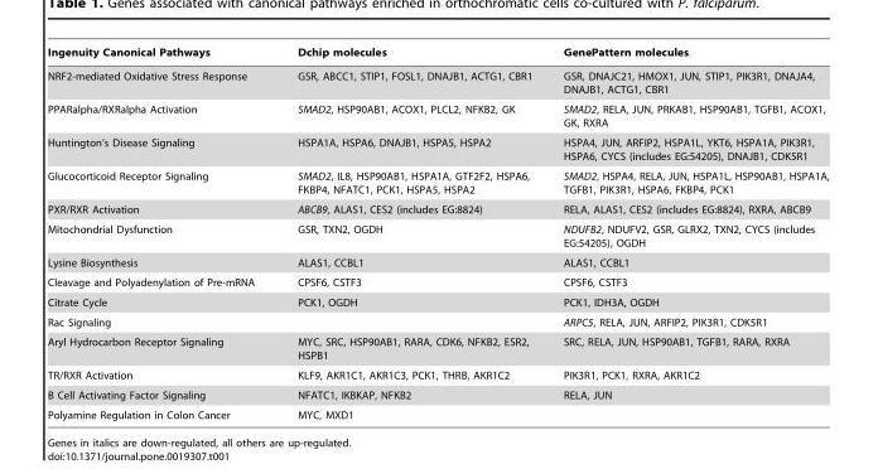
<table><thead><tr><td>Ingenuity Canonical Pathways</td><td>Dchip molecules</td><td>GenePattern molecules</td></tr></thead><tbody><tr><td>NRF2-mediated Oxidative Stress Response</td><td>GSR, ABCC1, STIP1, FOSL1, DNAJB1, ACTG1, CBR1</td><td>GSR, DNAJC21, HMOX1, JUN, STIP1, PIK3R1, DNAJA4, DNAJB1, ACTG1, CBR1</td></tr><tr><td>PPARalpha/RXRalpha Activation</td><td>SMAD2, HSP90AB1, ACOX1, PLCL2, NFKB2, GK</td><td>SMAD2, RELA, JUN, PRKAB1, HSP90AB1, TGFB1, ACOX1, GK, RXRA</td></tr><tr><td>Huntington’s Disease Signaling</td><td>HSPA1A, HSPA6, DNAJB1, HSPA5, HSPA2</td><td>HSPA4, JUN, ARFIP2, HSPA1L, YKT6, HSPA1A, PIK3R1, HSPA6, CYCS (includes EG:54205), DNAJB1, CDK5R1</td></tr><tr><td>Glucocorticoid Receptor Signaling</td><td>SMAD2, IL8, HSP90AB1, HSPA1A, GTF2F2, HSPA6, FKBP4, NFATC1, PCK1, HSPA5, HSPA2</td><td>SMAD2, HSPA4, RELA, JUN, HSPA1L, HSP90AB1, HSPA1A, TGFB1, PIK3R1, HSPA6, FKBP4, PCK1</td></tr><tr><td>PXR/RXR Activation</td><td>ABCB9, ALAS1, CES2 (includes EG:8824)</td><td>RELA, ALAS1, CES2 (includes EG:8824), RXRA, ABCB9</td></tr><tr><td>Mitochondrial Dysfunction</td><td>GSR, TXN2, OGDH</td><td>NDUFB2, NDUFV2, GSR, GLRX2, TXN2, CYCS (includes EG:54205), OGDH</td></tr><tr><td>Lysine Biosynthesis</td><td>ALAS1, CCBL1</td><td>ALAS1, CCBL1</td></tr><tr><td>Cleavage and Polyadenylation of Pre-mRNA</td><td>CPSF6, CSTF3</td><td>CPSF6, CSTF3</td></tr><tr><td>Citrate Cycle</td><td>PCK1, OGDH</td><td>PCK1, IDH3A, OGDH</td></tr><tr><td>Rac Signaling</td><td></td><td>ARPC5, RELA, JUN, ARFIP2, PIK3R1, CDK5R1</td></tr><tr><td>Aryl Hydrocarbon Receptor Signaling</td><td>MYC, SRC, HSP90AB1, RARA, CDK6, NFKB2, ESR2, HSPB1</td><td>SRC, RELA, JUN, HSP90AB1, TGFB1, RARA, RXRA</td></tr><tr><td>TR/RXR Activation</td><td>KLF9, AKR1C1, AKR1C3, PCK1, THRB, AKR1C2</td><td>PIK3R1, PCK1, RXRA, AKR1C2</td></tr><tr><td>B Cell Activating Factor Signaling</td><td>NFATC1, IKBKAP, NFKB2</td><td>RELA, JUN</td></tr><tr><td>Polyamine Regulation in Colon Cancer</td><td>MYC, MXD1</td><td></td></tr></tbody></table>